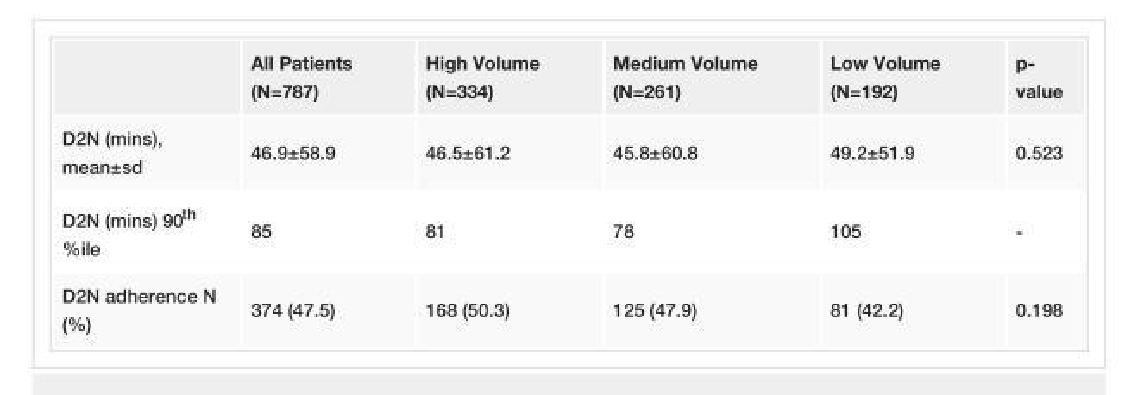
<table><thead><tr><td></td><td>All Patients (N=787)</td><td>High Volume (N=334)</td><td>Medium Volume (N=261)</td><td>Low Volume (N=192)</td><td>p- value</td></tr></thead><tbody><tr><td>D2N (mins), mean±sd</td><td>46.9±58.9</td><td>46.5±61.2</td><td>45.8±60.8</td><td>49.2±51.9</td><td>0.523</td></tr><tr><td>D2N (mins) 90<sup>th</sup> %ile</td><td>85</td><td>81</td><td>78</td><td>105</td><td>-</td></tr><tr><td>D2N adherence N (%)</td><td>374 (47.5)</td><td>168 (50.3)</td><td>125 (47.9)</td><td>81 (42.2)</td><td>0.198</td></tr></tbody></table>